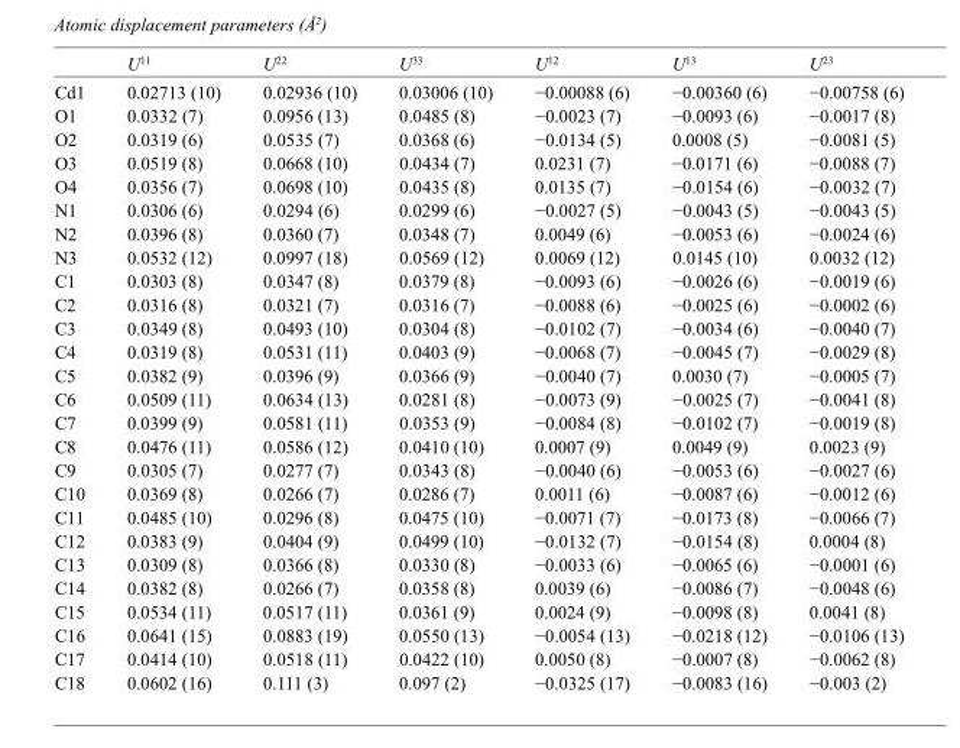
<table><thead><tr><td></td><td>U<sup>11</sup></td><td>U<sup>22</sup></td><td>U<sup>33</sup></td><td>U<sup>12</sup></td><td>U<sup>13</sup></td><td>U<sup>23</sup></td></tr></thead><tbody><tr><td>Cd1</td><td>0.02713 (10)</td><td>0.02936 (10)</td><td>0.03006 (10)</td><td>−0.00088 (6)</td><td>−0.00360 (6)</td><td>−0.00758 (6)</td></tr><tr><td>O1</td><td>0.0332 (7)</td><td>0.0956 (13)</td><td>0.0485 (8)</td><td>−0.0023 (7)</td><td>−0.0093 (6)</td><td>−0.0017 (8)</td></tr><tr><td>O2</td><td>0.0319 (6)</td><td>0.0535 (7)</td><td>0.0368 (6)</td><td>−0.0134 (5)</td><td>0.0008 (5)</td><td>−0.0081 (5)</td></tr><tr><td>O3</td><td>0.0519 (8)</td><td>0.0668 (10)</td><td>0.0434 (7)</td><td>0.0231 (7)</td><td>−0.0171 (6)</td><td>−0.0088 (7)</td></tr><tr><td>O4</td><td>0.0356 (7)</td><td>0.0698 (10)</td><td>0.0435 (8)</td><td>0.0135 (7)</td><td>−0.0154 (6)</td><td>−0.0032 (7)</td></tr><tr><td>N1</td><td>0.0306 (6)</td><td>0.0294 (6)</td><td>0.0299 (6)</td><td>−0.0027 (5)</td><td>−0.0043 (5)</td><td>−0.0043 (5)</td></tr><tr><td>N2</td><td>0.0396 (8)</td><td>0.0360 (7)</td><td>0.0348 (7)</td><td>0.0049 (6)</td><td>−0.0053 (6)</td><td>−0.0024 (6)</td></tr><tr><td>N3</td><td>0.0532 (12)</td><td>0.0997 (18)</td><td>0.0569 (12)</td><td>0.0069 (12)</td><td>0.0145 (10)</td><td>0.0032 (12)</td></tr><tr><td>C1</td><td>0.0303 (8)</td><td>0.0347 (8)</td><td>0.0379 (8)</td><td>−0.0093 (6)</td><td>−0.0026 (6)</td><td>−0.0019 (6)</td></tr><tr><td>C2</td><td>0.0316 (8)</td><td>0.0321 (7)</td><td>0.0316 (7)</td><td>−0.0088 (6)</td><td>−0.0025 (6)</td><td>−0.0002 (6)</td></tr><tr><td>C3</td><td>0.0349 (8)</td><td>0.0493 (10)</td><td>0.0304 (8)</td><td>−0.0102 (7)</td><td>−0.0034 (6)</td><td>−0.0040 (7)</td></tr><tr><td>C4</td><td>0.0319 (8)</td><td>0.0531 (11)</td><td>0.0403 (9)</td><td>−0.0068 (7)</td><td>−0.0045 (7)</td><td>−0.0029 (8)</td></tr><tr><td>C5</td><td>0.0382 (9)</td><td>0.0396 (9)</td><td>0.0366 (9)</td><td>−0.0040 (7)</td><td>0.0030 (7)</td><td>−0.0005 (7)</td></tr><tr><td>C6</td><td>0.0509 (11)</td><td>0.0634 (13)</td><td>0.0281 (8)</td><td>−0.0073 (9)</td><td>−0.0025 (7)</td><td>−0.0041 (8)</td></tr><tr><td>C7</td><td>0.0399 (9)</td><td>0.0581 (11)</td><td>0.0353 (9)</td><td>−0.0084 (8)</td><td>−0.0102 (7)</td><td>−0.0019 (8)</td></tr><tr><td>C8</td><td>0.0476 (11)</td><td>0.0586 (12)</td><td>0.0410 (10)</td><td>0.0007 (9)</td><td>0.0049 (9)</td><td>0.0023 (9)</td></tr><tr><td>C9</td><td>0.0305 (7)</td><td>0.0277 (7)</td><td>0.0343 (8)</td><td>−0.0040 (6)</td><td>−0.0053 (6)</td><td>−0.0027 (6)</td></tr><tr><td>C10</td><td>0.0369 (8)</td><td>0.0266 (7)</td><td>0.0286 (7)</td><td>0.0011 (6)</td><td>−0.0087 (6)</td><td>−0.0012 (6)</td></tr><tr><td>C11</td><td>0.0485 (10)</td><td>0.0296 (8)</td><td>0.0475 (10)</td><td>−0.0071 (7)</td><td>−0.0173 (8)</td><td>−0.0066 (7)</td></tr><tr><td>C12</td><td>0.0383 (9)</td><td>0.0404 (9)</td><td>0.0499 (10)</td><td>−0.0132 (7)</td><td>−0.0154 (8)</td><td>0.0004 (8)</td></tr><tr><td>C13</td><td>0.0309 (8)</td><td>0.0366 (8)</td><td>0.0330 (8)</td><td>−0.0033 (6)</td><td>−0.0065 (6)</td><td>−0.0001 (6)</td></tr><tr><td>C14</td><td>0.0382 (8)</td><td>0.0266 (7)</td><td>0.0358 (8)</td><td>0.0039 (6)</td><td>−0.0086 (7)</td><td>−0.0048 (6)</td></tr><tr><td>C15</td><td>0.0534 (11)</td><td>0.0517 (11)</td><td>0.0361 (9)</td><td>0.0024 (9)</td><td>−0.0098 (8)</td><td>0.0041 (8)</td></tr><tr><td>C16</td><td>0.0641 (15)</td><td>0.0883 (19)</td><td>0.0550 (13)</td><td>−0.0054 (13)</td><td>−0.0218 (12)</td><td>−0.0106 (13)</td></tr><tr><td>C17</td><td>0.0414 (10)</td><td>0.0518 (11)</td><td>0.0422 (10)</td><td>0.0050 (8)</td><td>−0.0007 (8)</td><td>−0.0062 (8)</td></tr><tr><td>C18</td><td>0.0602 (16)</td><td>0.111 (3)</td><td>0.097 (2)</td><td>−0.0325 (17)</td><td>−0.0083 (16)</td><td>−0.003 (2)</td></tr></tbody></table>